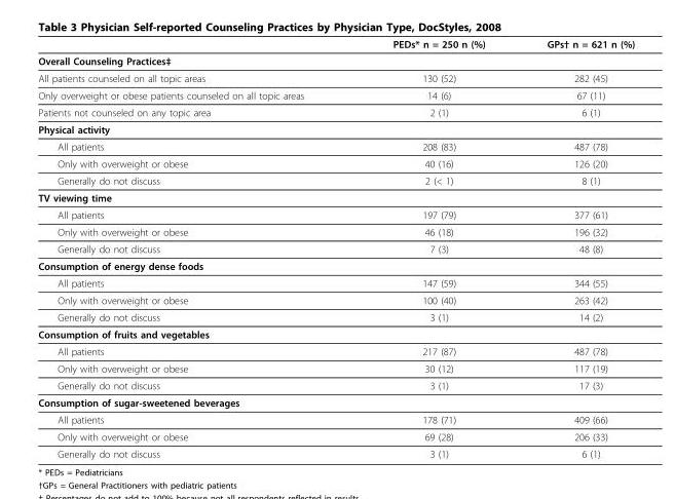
<table><thead><tr><td></td><td>PEDs* n = 250 n (%)</td><td>GPs† n = 621 n (%)</td></tr></thead><tbody><tr><td colspan="3">Overall Counseling Practices‡</td></tr><tr><td>All patients counseled on all topic areas</td><td>130 (52)</td><td>282 (45)</td></tr><tr><td>Only overweight or obese patients counseled on all topic areas</td><td>14 (6)</td><td>67 (11)</td></tr><tr><td>Patients not counseled on any topic area</td><td>2 (1)</td><td>6 (1)</td></tr><tr><td colspan="3">Physical activity</td></tr><tr><td>All patients</td><td>208 (83)</td><td>487 (78)</td></tr><tr><td>Only with overweight or obese</td><td>40 (16)</td><td>126 (20)</td></tr><tr><td>Generally do not discuss</td><td>2 (&lt; 1)</td><td>8 (1)</td></tr><tr><td colspan="3">TV viewing time</td></tr><tr><td>All patients</td><td>197 (79)</td><td>377 (61)</td></tr><tr><td>Only with overweight or obese</td><td>46 (18)</td><td>196 (32)</td></tr><tr><td>Generally do not discuss</td><td>7 (3)</td><td>48 (8)</td></tr><tr><td colspan="3">Consumption of energy dense foods</td></tr><tr><td>All patients</td><td>147 (59)</td><td>344 (55)</td></tr><tr><td>Only with overweight or obese</td><td>100 (40)</td><td>263 (42)</td></tr><tr><td>Generally do not discuss</td><td>3 (1)</td><td>14 (2)</td></tr><tr><td colspan="3">Consumption of fruits and vegetables</td></tr><tr><td>All patients</td><td>217 (87)</td><td>487 (78)</td></tr><tr><td>Only with overweight or obese</td><td>30 (12)</td><td>117 (19)</td></tr><tr><td>Generally do not discuss</td><td>3 (1)</td><td>17 (3)</td></tr><tr><td colspan="3">Consumption of sugar-sweetened beverages</td></tr><tr><td>All patients</td><td>178 (71)</td><td>409 (66)</td></tr><tr><td>Only with overweight or obese</td><td>69 (28)</td><td>206 (33)</td></tr><tr><td>Generally do not discuss</td><td>3 (1)</td><td>6 (1)</td></tr></tbody></table>